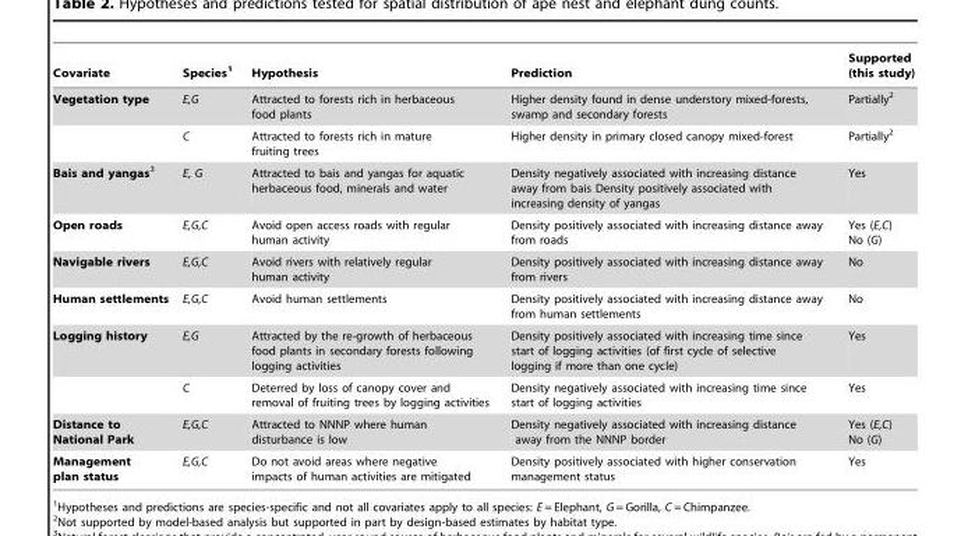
<table><thead><tr><td>Covariate</td><td>Species<sup>1</sup></td><td>Hypothesis</td><td>Prediction</td><td>Supported (this study)</td></tr></thead><tbody><tr><td rowspan="2">Vegetation type</td><td>E,G</td><td>Attracted to forests rich in herbaceous food plants</td><td>Higher density found in dense understory mixed-forests, swamp and secondary forests</td><td>Partially<sup>2</sup></td></tr><tr><td>C</td><td>Attracted to forests rich in mature fruiting trees</td><td>Higher density in primary closed canopy mixed-forest</td><td>Partially<sup>2</sup></td></tr><tr><td>Bais and yangas3</td><td>E, G</td><td>Attracted to bais and yangas for aquatic herbaceous food, minerals and water</td><td>Density negatively associated with increasing distance away from bais Density positively associated with increasing density of yangas</td><td>Yes</td></tr><tr><td>Open roads</td><td>E,G,C</td><td>Avoid open access roads with regular human activity</td><td>Density positively associated with increasing distance away from roads</td><td>Yes (E,C) No (G)</td></tr><tr><td>Navigable rivers</td><td>E,G,C</td><td>Avoid rivers with relatively regular human activity</td><td>Density positively associated with increasing distance away from rivers</td><td>No</td></tr><tr><td>Human settlements</td><td>E,G,C</td><td>Avoid human settlements</td><td>Density positively associated with increasing distance away from human settlements</td><td>No</td></tr><tr><td rowspan="2">Logging history</td><td>E,G</td><td>Attracted by the re-growth of herbaceous food plants in secondary forests following logging activities</td><td>Density positively associated with increasing time since start of logging activities (of first cycle of selective logging if more than one cycle)</td><td>Yes</td></tr><tr><td>C</td><td>Deterred by loss of canopy cover and removal of fruiting trees by logging activities</td><td>Density negatively associated with increasing time since start of logging activities</td><td>Yes</td></tr><tr><td>Distance to National Park</td><td>E,G,C</td><td>Attracted to NNNP where human disturbance is low</td><td>Density negatively associated with increasing distance away from the NNNP border</td><td>Yes (E,C) No (G)</td></tr><tr><td>Management plan status</td><td>E,G,C</td><td>Do not avoid areas where negative impacts of human activities are mitigated</td><td>Density positively associated with higher conservation management status</td><td>Yes</td></tr></tbody></table>